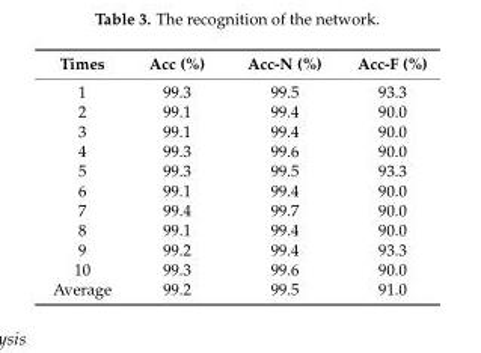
<table><thead><tr><td>Times</td><td>Acc (%)</td><td>Acc-N (%)</td><td>Acc-F (%)</td></tr></thead><tbody><tr><td>1</td><td>99.3</td><td>99.5</td><td>93.3</td></tr><tr><td>2</td><td>99.1</td><td>99.4</td><td>90.0</td></tr><tr><td>3</td><td>99.1</td><td>99.4</td><td>90.0</td></tr><tr><td>4</td><td>99.3</td><td>99.6</td><td>90.0</td></tr><tr><td>5</td><td>99.3</td><td>99.5</td><td>93.3</td></tr><tr><td>6</td><td>99.1</td><td>99.4</td><td>90.0</td></tr><tr><td>7</td><td>99.4</td><td>99.7</td><td>90.0</td></tr><tr><td>8</td><td>99.1</td><td>99.4</td><td>90.0</td></tr><tr><td>9</td><td>99.2</td><td>99.4</td><td>93.3</td></tr><tr><td>10</td><td>99.3</td><td>99.6</td><td>90.0</td></tr><tr><td>Average</td><td>99.2</td><td>99.5</td><td>91.0</td></tr></tbody></table>